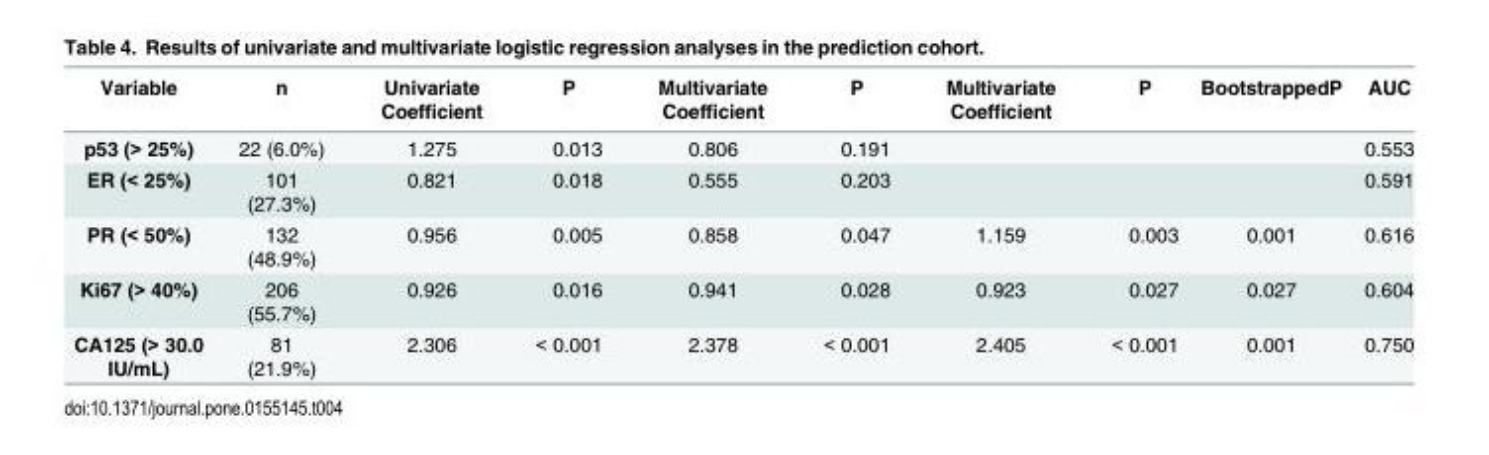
<table><thead><tr><td>Variable</td><td>n</td><td>Univariate Coefficient</td><td>P</td><td>Multivariate Coefficient</td><td>P</td><td>Multivariate Coefficient</td><td>P</td><td>BootstrappedP</td><td>AUC</td></tr></thead><tbody><tr><td>p53 (&gt; 25%)</td><td>22 (6.0%)</td><td>1.275</td><td>0.013</td><td>0.806</td><td>0.191</td><td></td><td></td><td></td><td>0.553</td></tr><tr><td>ER (&lt; 25%)</td><td>101 (27.3%)</td><td>0.821</td><td>0.018</td><td>0.555</td><td>0.203</td><td></td><td></td><td></td><td>0.591</td></tr><tr><td>PR (&lt; 50%)</td><td>132 (48.9%)</td><td>0.956</td><td>0.005</td><td>0.858</td><td>0.047</td><td>1.159</td><td>0.003</td><td>0.001</td><td>0.616</td></tr><tr><td>Ki67 (&gt; 40%)</td><td>206 (55.7%)</td><td>0.926</td><td>0.016</td><td>0.941</td><td>0.028</td><td>0.923</td><td>0.027</td><td>0.027</td><td>0.604</td></tr><tr><td>CA125 (&gt; 30.0 IU/mL)</td><td>81 (21.9%)</td><td>2.306</td><td>&lt; 0.001</td><td>2.378</td><td>&lt; 0.001</td><td>2.405</td><td>&lt; 0.001</td><td>0.001</td><td>0.750</td></tr></tbody></table>